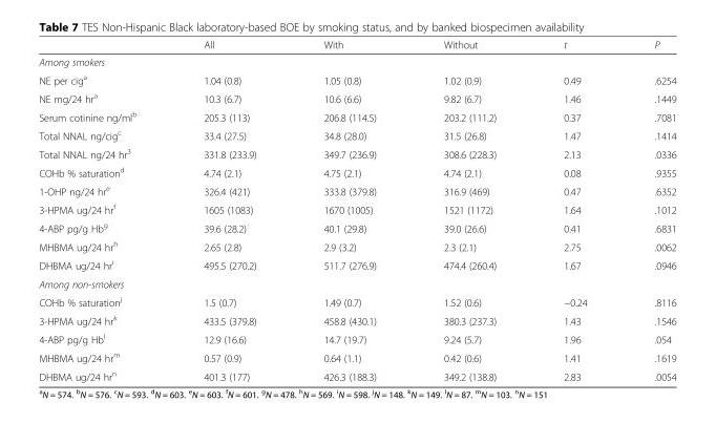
<table><thead><tr><td></td><td>All</td><td>With</td><td>Without</td><td>t</td><td>P</td></tr></thead><tbody><tr><td colspan="6">Among smokers</td></tr><tr><td>NE per cig<sup>a</sup></td><td>1.04 (0.8)</td><td>1.05 (0.8)</td><td>1.02 (0.9)</td><td>0.49</td><td>.6254</td></tr><tr><td>NE mg/24 hr<sup>a</sup></td><td>10.3 (6.7)</td><td>10.6 (6.6)</td><td>9.82 (6.7)</td><td>1.46</td><td>.1449</td></tr><tr><td>Serum cotinine ng/ml<sup>b</sup></td><td>205.3 (113)</td><td>206.8 (114.5)</td><td>203.2 (111.2)</td><td>0.37</td><td>.7081</td></tr><tr><td>Total NNAL ng/cig<sup>c</sup></td><td>33.4 (27.5)</td><td>34.8 (28.0)</td><td>31.5 (26.8)</td><td>1.47</td><td>.1414</td></tr><tr><td>Total NNAL ng/24 hr<sup>3</sup></td><td>331.8 (233.9)</td><td>349.7 (236.9)</td><td>308.6 (228.3)</td><td>2.13</td><td>.0336</td></tr><tr><td>COHb % saturation<sup>d</sup></td><td>4.74 (2.1)</td><td>4.75 (2.1)</td><td>4.74 (2.1)</td><td>0.08</td><td>.9355</td></tr><tr><td>1-OHP ng/24 hr<sup>e</sup></td><td>326.4 (421)</td><td>333.8 (379.8)</td><td>316.9 (469)</td><td>0.47</td><td>.6352</td></tr><tr><td>3-HPMA ug/24 hr<sup>f</sup></td><td>1605 (1083)</td><td>1670 (1005)</td><td>1521 (1172)</td><td>1.64</td><td>.1012</td></tr><tr><td>4-ABP pg/g Hb<sup>g</sup></td><td>39.6 (28.2)</td><td>40.1 (29.8)</td><td>39.0 (26.6)</td><td>0.41</td><td>.6831</td></tr><tr><td>MHBMA ug/24 hr<sup>h</sup></td><td>2.65 (2.8)</td><td>2.9 (3.2)</td><td>2.3 (2.1)</td><td>2.75</td><td>.0062</td></tr><tr><td>DHBMA ug/24 hr<sup>i</sup></td><td>495.5 (270.2)</td><td>511.7 (276.9)</td><td>474.4 (260.4)</td><td>1.67</td><td>.0946</td></tr><tr><td colspan="6">Among non-smokers</td></tr><tr><td>COHb % saturation<sup>j</sup></td><td>1.5 (0.7)</td><td>1.49 (0.7)</td><td>1.52 (0.6)</td><td>−0.24</td><td>.8116</td></tr><tr><td>3-HPMA ug/24 hr<sup>k</sup></td><td>433.5 (379.8)</td><td>458.8 (430.1)</td><td>380.3 (237.3)</td><td>1.43</td><td>.1546</td></tr><tr><td>4-ABP pg/g Hb<sup>l</sup></td><td>12.9 (16.6)</td><td>14.7 (19.7)</td><td>9.24 (5.7)</td><td>1.96</td><td>.054</td></tr><tr><td>MHBMA ug/24 hr<sup>m</sup></td><td>0.57 (0.9)</td><td>0.64 (1.1)</td><td>0.42 (0.6)</td><td>1.41</td><td>.1619</td></tr><tr><td>DHBMA ug/24 hr<sup>n</sup></td><td>401.3 (177)</td><td>426.3 (188.3)</td><td>349.2 (138.8)</td><td>2.83</td><td>.0054</td></tr></tbody></table>